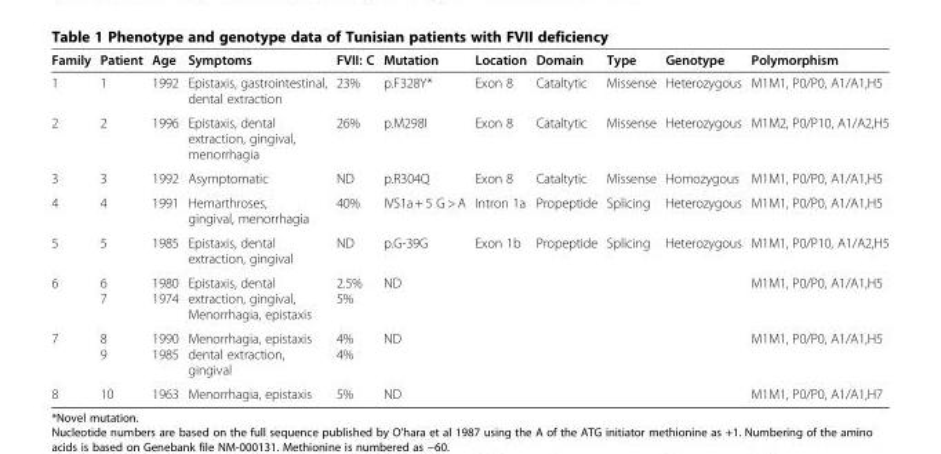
<table><thead><tr><td>Family</td><td>Patient</td><td>Age</td><td>Symptoms</td><td>FVII: C</td><td>Mutation</td><td>Location</td><td>Domain</td><td>Type</td><td>Genotype</td><td>Polymorphism</td></tr></thead><tbody><tr><td>1</td><td>1</td><td>1992</td><td>Epistaxis, gastrointestinal, dental extraction</td><td>23%</td><td>p.F328Y*</td><td>Exon 8</td><td>Cataltytic</td><td>Missense</td><td>Heterozygous</td><td>M1M1, P0/P0, A1/A1,H5</td></tr><tr><td>2</td><td>2</td><td>1996</td><td>Epistaxis, dental extraction, gingival, menorrhagia</td><td>26%</td><td>p.M298I</td><td>Exon 8</td><td>Cataltytic</td><td>Missense</td><td>Heterozygous</td><td>M1M2, P0/P10, A1/A2,H5</td></tr><tr><td>3</td><td>3</td><td>1992</td><td>Asymptomatic</td><td>ND</td><td>p.R304Q</td><td>Exon 8</td><td>Cataltytic</td><td>Missense</td><td>Homozygous</td><td>M1M1, P0/P0, A1/A1,H5</td></tr><tr><td>4</td><td>4</td><td>1991</td><td>Hemarthroses, gingival, menorrhagia</td><td>40%</td><td>IVS1a + 5 G &gt; A</td><td>Intron 1a</td><td>Propeptide</td><td>Splicing</td><td>Heterozygous</td><td>M1M1, P0/P0, A1/A1,H5</td></tr><tr><td>5</td><td>5</td><td>1985</td><td>Epistaxis, dental extraction, gingival</td><td>ND</td><td>p.G-39G</td><td>Exon 1b</td><td>Propeptide</td><td>Splicing</td><td>Heterozygous</td><td>M1M1, P0/P10, A1/A2,H5</td></tr><tr><td>6</td><td>6 7</td><td>1980 1974</td><td>Epistaxis, dental extraction, gingival, Menorrhagia, epistaxis</td><td>2.5% 5%</td><td colspan="5">ND</td><td>M1M1, P0/P0, A1/A1,H5</td></tr><tr><td>7</td><td>8 9</td><td>1990 1985</td><td>Menorrhagia, epistaxis dental extraction, gingival</td><td>4% 4%</td><td colspan="5">ND</td><td>M1M1, P0/P0, A1/A1,H5</td></tr><tr><td>8</td><td>10</td><td>1963</td><td>Menorrhagia, epistaxis</td><td>5%</td><td colspan="5">ND</td><td>M1M1, P0/P0, A1/A1,H7</td></tr></tbody></table>